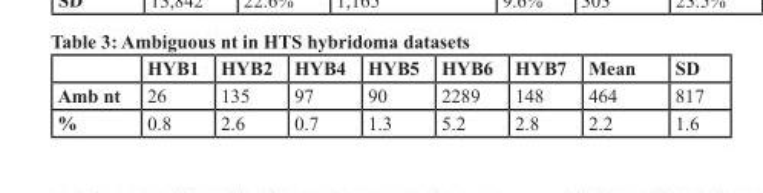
<table><thead><tr><td></td><td>HYB1</td><td>HYB2</td><td>HYB4</td><td>HYB5</td><td>HYB6</td><td>HYB7</td><td>Mean</td><td>SD</td></tr></thead><tbody><tr><td>Amb nt</td><td>26</td><td>135</td><td>97</td><td>90</td><td>2289</td><td>148</td><td>464</td><td>817</td></tr><tr><td>%</td><td>0.8</td><td>2.6</td><td>0.7</td><td>1.3</td><td>5.2</td><td>2.8</td><td>2.2</td><td>1.6</td></tr></tbody></table>